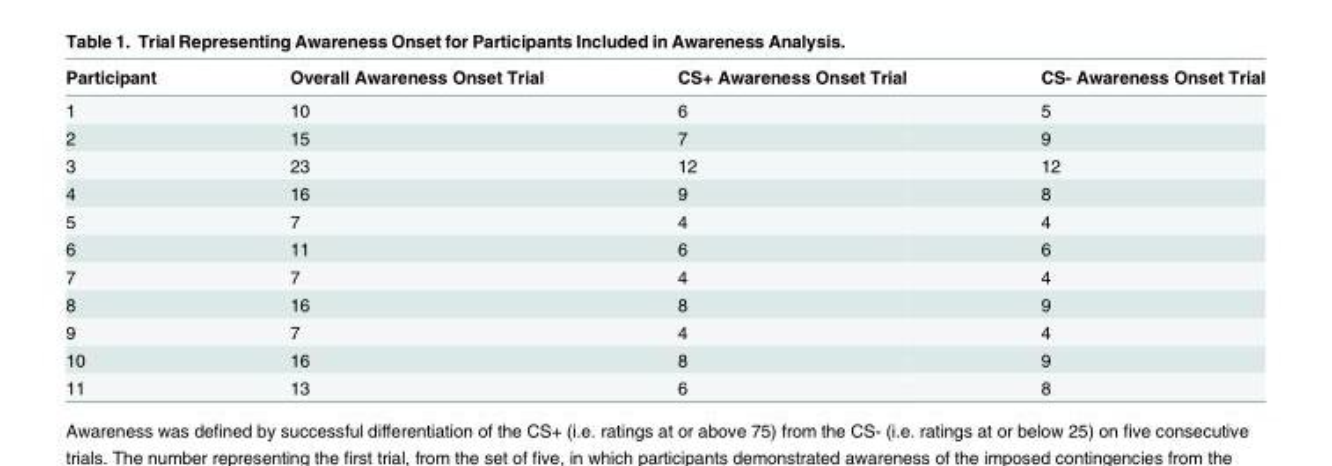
<table><thead><tr><td>Participant</td><td>Overall Awareness Onset Trial</td><td>CS+ Awareness Onset Trial</td><td>CS- Awareness Onset Trial</td></tr></thead><tbody><tr><td>1</td><td>10</td><td>6</td><td>5</td></tr><tr><td>2</td><td>15</td><td>7</td><td>9</td></tr><tr><td>3</td><td>23</td><td>12</td><td>12</td></tr><tr><td>4</td><td>16</td><td>9</td><td>8</td></tr><tr><td>5</td><td>7</td><td>4</td><td>4</td></tr><tr><td>6</td><td>11</td><td>6</td><td>6</td></tr><tr><td>7</td><td>7</td><td>4</td><td>4</td></tr><tr><td>8</td><td>16</td><td>8</td><td>9</td></tr><tr><td>9</td><td>7</td><td>4</td><td>4</td></tr><tr><td>10</td><td>16</td><td>8</td><td>9</td></tr><tr><td>11</td><td>13</td><td>6</td><td>8</td></tr></tbody></table>